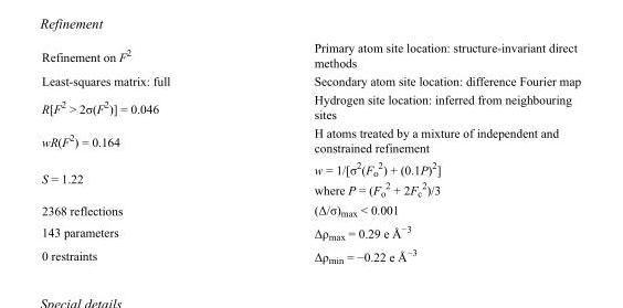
<table><tbody><tr><td>Refinement on F<sup>2</sup></td><td>Primary atom site location: structure-invariant direct methods</td></tr><tr><td>Least-squares matrix: full</td><td>Secondary atom site location: difference Fourier map</td></tr><tr><td>R[F<sup>2</sup> &gt; 2σ(F<sup>2</sup>)] = 0.046</td><td>Hydrogen site location: inferred from neighbouring sites</td></tr><tr><td>wR(F<sup>2</sup>) = 0.164</td><td>H atoms treated by a mixture of independent and constrained refinement</td></tr><tr><td>S = 1.22</td><td>w = 1/[σ<sup>2</sup>(F<sub>o</sub> <sup>2</sup>) + (0.1P)<sup>2</sup>] where P = (F<sub>o</sub> <sup>2</sup> + 2F<sub>c</sub> <sup>2</sup>)/3</td></tr><tr><td>2368 reflections</td><td>(Δ/σ)<sub>max</sub> &lt; 0.001</td></tr><tr><td>143 parameters</td><td>Δρ<sub>max</sub> = 0.29 e Å<sup>−3</sup></td></tr><tr><td>0 restraints</td><td>Δρ<sub>min</sub> = −0.22 e Å<sup>−3</sup></td></tr></tbody></table>